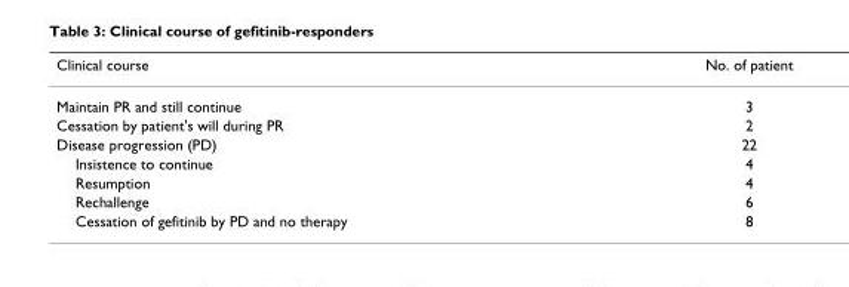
<table><thead><tr><td>Clinical course</td><td>No. of patient</td></tr></thead><tbody><tr><td>Maintain PR and still continue</td><td>3</td></tr><tr><td>Cessation by patient&#x27;s will during PR</td><td>2</td></tr><tr><td>Disease progression (PD)</td><td>22</td></tr><tr><td>Insistence to continue</td><td>4</td></tr><tr><td>Resumption</td><td>4</td></tr><tr><td>Rechallenge</td><td>6</td></tr><tr><td>Cessation of gefitinib by PD and no therapy</td><td>8</td></tr></tbody></table>